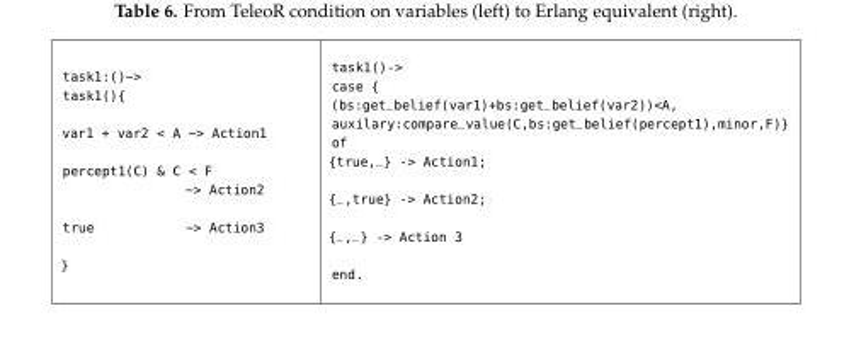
<table><tbody><tr><td>task1:()~&gt; task1(){ var1 + var2 &lt; A ~&gt; Action1 percept1(C) &amp; C &lt; F ~&gt; Action2 true ~&gt; Action3 }</td><td>task1()-&gt; case { (bs:get_belief(var1)+bs:get_belief(var2))&lt;A, auxilary:compare_value(C,bs:get_belief(percept1),minor,F)} of {true,_} -&gt; Action1; {_,true} -&gt; Action2; {_,_} -&gt; Action 3 end.</td></tr></tbody></table>